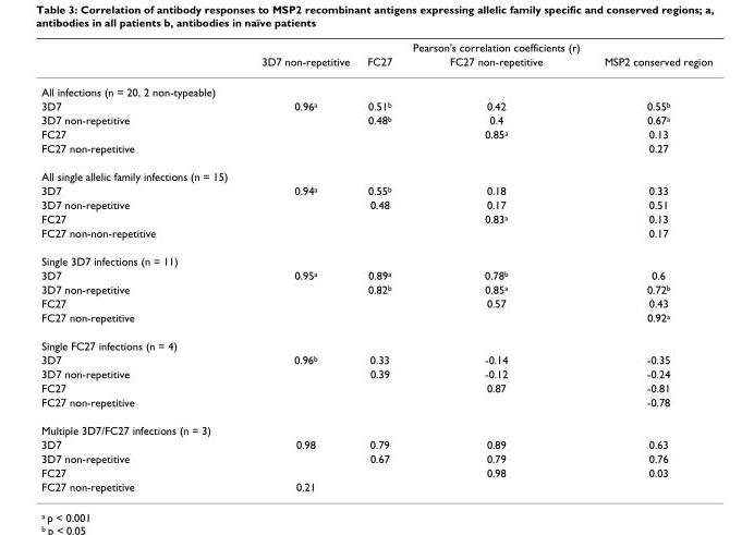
<table><thead><tr><td rowspan="2"></td><td rowspan="2">3D7 non-repetitive</td><td rowspan="2">FC27</td><td rowspan="2">Pearson&#x27;s correlation coefficients (r) FC27 non-repetitive</td><td rowspan="2">MSP2 conserved region</td></tr><tr></tr></thead><tbody><tr><td colspan="5">All infections (n = 20, 2 non-typeable)</td></tr><tr><td>3D7</td><td>0.96<sup>a</sup></td><td>0.51<sup>b</sup></td><td>0.42</td><td>0.55<sup>b</sup></td></tr><tr><td>3D7 non-repetitive</td><td></td><td>0.48<sup>b</sup></td><td>0.4</td><td>0.67<sup>a</sup></td></tr><tr><td>FC27</td><td></td><td></td><td>0.85<sup>a</sup></td><td>0.13</td></tr><tr><td>FC27 non-repetitive</td><td></td><td></td><td></td><td>0.27</td></tr><tr><td colspan="5">All single allelic family infections (n = 15)</td></tr><tr><td>3D7</td><td>0.94<sup>a</sup></td><td>0.55<sup>b</sup></td><td>0.18</td><td>0.33</td></tr><tr><td>3D7 non-repetitive</td><td></td><td>0.48</td><td>0.17</td><td>0.51</td></tr><tr><td>FC27</td><td></td><td></td><td>0.83<sup>a</sup></td><td>0.13</td></tr><tr><td>FC27 non-non-repetitive</td><td></td><td></td><td></td><td>0.17</td></tr><tr><td colspan="5">Single 3D7 infections (n = 11)</td></tr><tr><td>3D7</td><td>0.95<sup>a</sup></td><td>0.89<sup>a</sup></td><td>0.78<sup>b</sup></td><td>0.6</td></tr><tr><td>3D7 non-repetitive</td><td></td><td>0.82<sup>b</sup></td><td>0.85<sup>a</sup></td><td>0.72<sup>b</sup></td></tr><tr><td>FC27</td><td></td><td></td><td>0.57</td><td>0.43</td></tr><tr><td>FC27 non-repetitive</td><td></td><td></td><td></td><td>0.92<sup>a</sup></td></tr><tr><td colspan="5">Single FC27 infections (n = 4)</td></tr><tr><td>3D7</td><td>0.96<sup>b</sup></td><td>0.33</td><td>-0.14</td><td>-0.35</td></tr><tr><td>3D7 non-repetitive</td><td></td><td>0.39</td><td>-0.12</td><td>-0.24</td></tr><tr><td>FC27</td><td></td><td></td><td>0.87</td><td>-0.81</td></tr><tr><td>FC27 non-repetitive</td><td></td><td></td><td></td><td>-0.78</td></tr><tr><td colspan="5">Multiple 3D7/FC27 infections (n = 3)</td></tr><tr><td>3D7</td><td>0.98</td><td>0.79</td><td>0.89</td><td>0.63</td></tr><tr><td>3D7 non-repetitive</td><td></td><td>0.67</td><td>0.79</td><td>0.76</td></tr><tr><td>FC27</td><td></td><td></td><td>0.98</td><td>0.03</td></tr><tr><td>FC27 non-repetitive</td><td>0.21</td><td></td><td></td><td></td></tr></tbody></table>